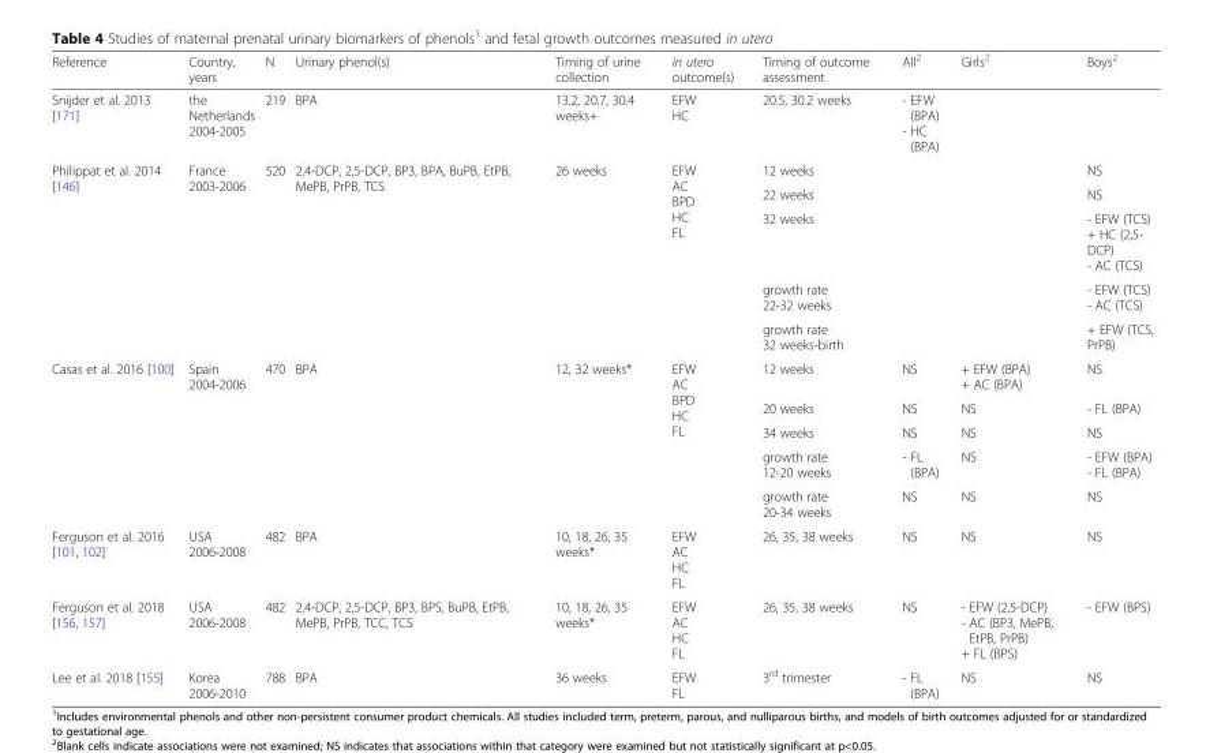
<table><thead><tr><td>Reference</td><td>Country, years</td><td>N</td><td>Urinary phenol(s)</td><td>Timing of urine collection</td><td>in utero outcome(s)</td><td>Timing of outcome assessment</td><td>All<sup>2</sup></td><td>Girls<sup>2</sup></td><td>Boys<sup>2</sup></td></tr></thead><tbody><tr><td>Snijder et al. 2013 [171]</td><td>the Netherlands 2004-2005</td><td>219</td><td>BPA</td><td>13.2, 20.7, 30.4 weeks+</td><td>EFW HC</td><td>20.5, 30.2 weeks</td><td>- EFW (BPA) - HC (BPA)</td><td></td><td></td></tr><tr><td rowspan="5">Philippat et al. 2014 [146]</td><td rowspan="5">France 2003-2006</td><td rowspan="5">520</td><td rowspan="5">2,4-DCP, 2,5-DCP, BP3, BPA, BuPB, EtPB, MePB, PrPB, TCS</td><td rowspan="5">26 weeks</td><td rowspan="5">EFW AC BPD HC FL</td><td>12 weeks</td><td></td><td></td><td>NS</td></tr><tr><td>22 weeks</td><td></td><td></td><td>NS</td></tr><tr><td>32 weeks</td><td></td><td></td><td>- EFW (TCS) + HC (2,5- DCP) - AC (TCS)</td></tr><tr><td>growth rate 22-32 weeks</td><td></td><td></td><td>- EFW (TCS) - AC (TCS)</td></tr><tr><td>growth rate 32 weeks-birth</td><td></td><td></td><td>+ EFW (TCS, PrPB)</td></tr><tr><td rowspan="5">Casas et al. 2016 [100]</td><td rowspan="5">Spain 2004-2006</td><td rowspan="5">470</td><td rowspan="5">BPA</td><td rowspan="5">12, 32 weeks*</td><td rowspan="5">EFW AC BPD HC FL</td><td>12 weeks</td><td>NS</td><td>+ EFW (BPA) + AC (BPA)</td><td>NS</td></tr><tr><td>20 weeks</td><td>NS</td><td>NS</td><td>- FL (BPA)</td></tr><tr><td>34 weeks</td><td>NS</td><td>NS</td><td>NS</td></tr><tr><td>growth rate 12-20 weeks</td><td>- FL (BPA)</td><td>NS</td><td>- EFW (BPA) - FL (BPA)</td></tr><tr><td>growth rate 20-34 weeks</td><td>NS</td><td>NS</td><td>NS</td></tr><tr><td>Ferguson et al. 2016 [101, 102]</td><td>USA 2006-2008</td><td>482</td><td>BPA</td><td>10, 18, 26, 35 weeks*</td><td>EFW AC HC FL</td><td>26, 35, 38 weeks</td><td>NS</td><td>NS</td><td>NS</td></tr><tr><td>Ferguson et al. 2018 [156, 157]</td><td>USA 2006-2008</td><td>482</td><td>2,4-DCP, 2,5-DCP, BP3, BPS, BuPB, EtPB, MePB, PrPB, TCC, TCS</td><td>10, 18, 26, 35 weeks*</td><td>EFW AC HC FL</td><td>26, 35, 38 weeks</td><td>NS</td><td>- EFW (2,5-DCP) - AC (BP3, MePB, EtPB, PrPB) + FL (BPS)</td><td>- EFW (BPS)</td></tr><tr><td>Lee et al. 2018 [155]</td><td>Korea 2006-2010</td><td>788</td><td>BPA</td><td>36 weeks</td><td>EFW FL</td><td>3<sup>rd</sup> trimester</td><td>- FL (BPA)</td><td>NS</td><td>NS</td></tr></tbody></table>